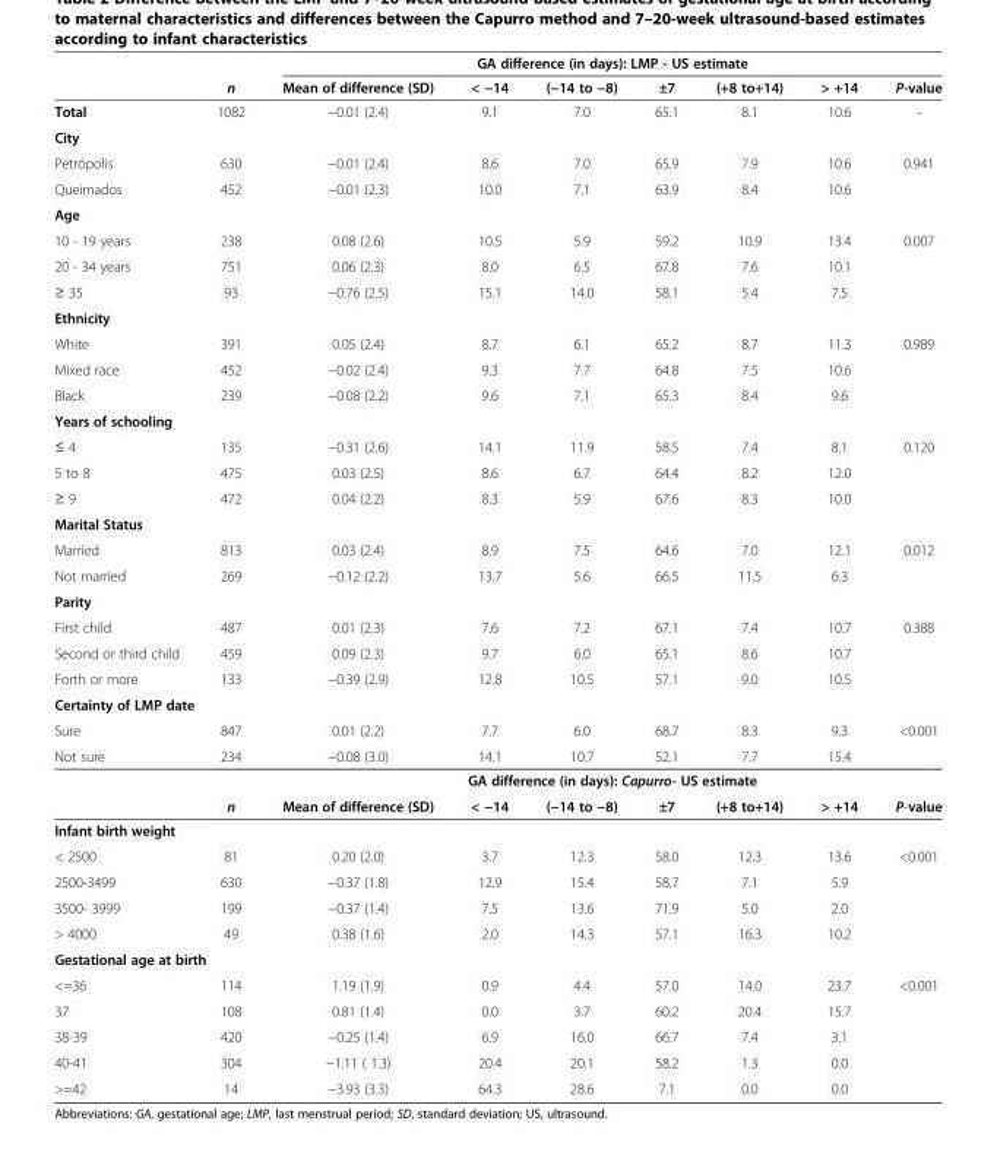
<table><thead><tr><td rowspan="2"></td><td rowspan="2">n</td><td colspan="7">GA difference (in days): LMP - US estimate</td></tr><tr><td>Mean of difference (SD)</td><td>&lt; −14</td><td>(−14 to −8)</td><td>±7</td><td>(+8 to+14)</td><td>&gt; +14</td><td>P-value</td></tr></thead><tbody><tr><td>Total</td><td>1082</td><td>−0.01 (2.4)</td><td>9.1</td><td>7.0</td><td>65.1</td><td>8.1</td><td>10.6</td><td>-</td></tr><tr><td colspan="9">City</td></tr><tr><td>Petrópolis</td><td>630</td><td>−0.01 (2.4)</td><td>8.6</td><td>7.0</td><td>65.9</td><td>7.9</td><td>10.6</td><td rowspan="2">0.941</td></tr><tr><td>Queimados</td><td>452</td><td>−0.01 (2.3)</td><td>10.0</td><td>7.1</td><td>63.9</td><td>8.4</td><td>10.6</td></tr><tr><td colspan="9">Age</td></tr><tr><td>10 - 19 years</td><td>238</td><td>0.08 (2.6)</td><td>10.5</td><td>5.9</td><td>59.2</td><td>10.9</td><td>13.4</td><td rowspan="3">0.007</td></tr><tr><td>20 - 34 years</td><td>751</td><td>0.06 (2.3)</td><td>8.0</td><td>6.5</td><td>67.8</td><td>7.6</td><td>10.1</td></tr><tr><td>≥ 35</td><td>93</td><td>−0.76 (2.5)</td><td>15.1</td><td>14.0</td><td>58.1</td><td>5.4</td><td>7.5</td></tr><tr><td colspan="9">Ethnicity</td></tr><tr><td>White</td><td>391</td><td>0.05 (2.4)</td><td>8.7</td><td>6.1</td><td>65.2</td><td>8.7</td><td>11.3</td><td rowspan="3">0.989</td></tr><tr><td>Mixed race</td><td>452</td><td>−0.02 (2.4)</td><td>9.3</td><td>7.7</td><td>64.8</td><td>7.5</td><td>10.6</td></tr><tr><td>Black</td><td>239</td><td>−0.08 (2.2)</td><td>9.6</td><td>7.1</td><td>65.3</td><td>8.4</td><td>9.6</td></tr><tr><td colspan="9">Years of schooling</td></tr><tr><td>≤ 4</td><td>135</td><td>−0.31 (2.6)</td><td>14.1</td><td>11.9</td><td>58.5</td><td>7.4</td><td>8.1</td><td>0.120</td></tr><tr><td>5 to 8</td><td>475</td><td>0.03 (2.5)</td><td>8.6</td><td>6.7</td><td>64.4</td><td>8.2</td><td>12.0</td><td></td></tr><tr><td>≥ 9</td><td>472</td><td>0.04 (2.2)</td><td>8.3</td><td>5.9</td><td>67.6</td><td>8.3</td><td>10.0</td><td></td></tr><tr><td colspan="9">Marital Status</td></tr><tr><td>Married</td><td>813</td><td>0.03 (2.4)</td><td>8.9</td><td>7.5</td><td>64.6</td><td>7.0</td><td>12.1</td><td rowspan="2">0.012</td></tr><tr><td>Not married</td><td>269</td><td>−0.12 (2.2)</td><td>13.7</td><td>5.6</td><td>66.5</td><td>11.5</td><td>6.3</td></tr><tr><td colspan="9">Parity</td></tr><tr><td>First child</td><td>487</td><td>0.01 (2.3)</td><td>7.6</td><td>7.2</td><td>67.1</td><td>7.4</td><td>10.7</td><td rowspan="3">0.388</td></tr><tr><td>Second or third child</td><td>459</td><td>0.09 (2.3)</td><td>9.7</td><td>6.0</td><td>65.1</td><td>8.6</td><td>10.7</td></tr><tr><td>Forth or more</td><td>133</td><td>−0.39 (2.9)</td><td>12.8</td><td>10.5</td><td>57.1</td><td>9.0</td><td>10.5</td></tr><tr><td colspan="9">Certainty of LMP date</td></tr><tr><td>Sure</td><td>847</td><td>0.01 (2.2)</td><td>7.7</td><td>6.0</td><td>68.7</td><td>8.3</td><td>9.3</td><td>&lt;0.001</td></tr><tr><td rowspan="3">Not sure</td><td>234</td><td>−0.08 (3.0)</td><td>14.1</td><td>10.7</td><td>52.1</td><td>7.7</td><td>15.4</td><td></td></tr><tr><td></td><td colspan="7">GA difference (in days): Capurro- US estimate</td></tr><tr><td>n</td><td>Mean of difference (SD)</td><td>&lt; −14</td><td>(−14 to −8)</td><td>±7</td><td>(+8 to+14)</td><td>&gt; +14</td><td>P-value</td></tr><tr><td colspan="9">Infant birth weight</td></tr><tr><td>&lt; 2500</td><td>81</td><td>0.20 (2.0)</td><td>3.7</td><td>12.3</td><td>58.0</td><td>12.3</td><td>13.6</td><td rowspan="4">&lt;0.001</td></tr><tr><td>2500-3499</td><td>630</td><td>−0.37 (1.8)</td><td>12.9</td><td>15.4</td><td>58.7</td><td>7.1</td><td>5.9</td></tr><tr><td>3500- 3999</td><td>199</td><td>−0.37 (1.4)</td><td>7.5</td><td>13.6</td><td>71.9</td><td>5.0</td><td>2.0</td></tr><tr><td>&gt; 4000</td><td>49</td><td>0.38 (1.6)</td><td>2.0</td><td>14.3</td><td>57.1</td><td>16.3</td><td>10.2</td></tr><tr><td colspan="9">Gestational age at birth</td></tr><tr><td>&lt;=36</td><td>114</td><td>1.19 (1.9)</td><td>0.9</td><td>4.4</td><td>57.0</td><td>14.0</td><td>23.7</td><td rowspan="4">&lt;0.001</td></tr><tr><td>37</td><td>108</td><td>0.81 (1.4)</td><td>0.0</td><td>3.7</td><td>60.2</td><td>20.4</td><td>15.7</td></tr><tr><td>38-39</td><td>420</td><td>−0.25 (1.4)</td><td>6.9</td><td>16.0</td><td>66.7</td><td>7.4</td><td>3.1</td></tr><tr><td>40-41</td><td>304</td><td>−1.11 ( 1.3)</td><td>20.4</td><td>20.1</td><td>58.2</td><td>1.3</td><td>0.0</td></tr><tr><td>&gt;=42</td><td>14</td><td>−3.93 (3.3)</td><td>64.3</td><td>28.6</td><td>7.1</td><td>0.0</td><td>0.0</td><td></td></tr></tbody></table>